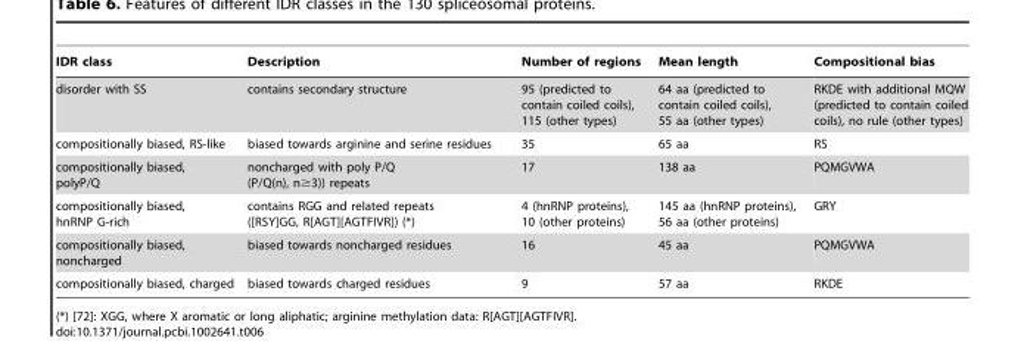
<table><thead><tr><td>IDR class</td><td>Description</td><td>Number of regions</td><td>Mean length</td><td>Compositional bias</td></tr></thead><tbody><tr><td>disorder with SS</td><td>contains secondary structure</td><td>95 (predicted to contain coiled coils), 115 (other types)</td><td>64 aa (predicted to contain coiled coils), 55 aa (other types)</td><td>RKDE with additional MQW (predicted to contain coiled coils), no rule (other types)</td></tr><tr><td>compositionally biased, RS-like</td><td>biased towards arginine and serine residues</td><td>35</td><td>65 aa</td><td>RS</td></tr><tr><td>compositionally biased, polyP/Q</td><td>noncharged with poly P/Q (P/Q(n), n≥3)) repeats</td><td>17</td><td>138 aa</td><td>PQMGVWA</td></tr><tr><td>compositionally biased, hnRNP G-rich</td><td>contains RGG and related repeats ([RSY]GG, R[AGT][AGTFIVR]) (*)</td><td>4 (hnRNP proteins), 10 (other proteins)</td><td>145 aa (hnRNP proteins), 56 aa (other proteins)</td><td>GRY</td></tr><tr><td>compositionally biased, noncharged</td><td>biased towards noncharged residues</td><td>16</td><td>45 aa</td><td>PQMGVWA</td></tr><tr><td>compositionally biased, charged</td><td>biased towards charged residues</td><td>9</td><td>57 aa</td><td>RKDE</td></tr></tbody></table>